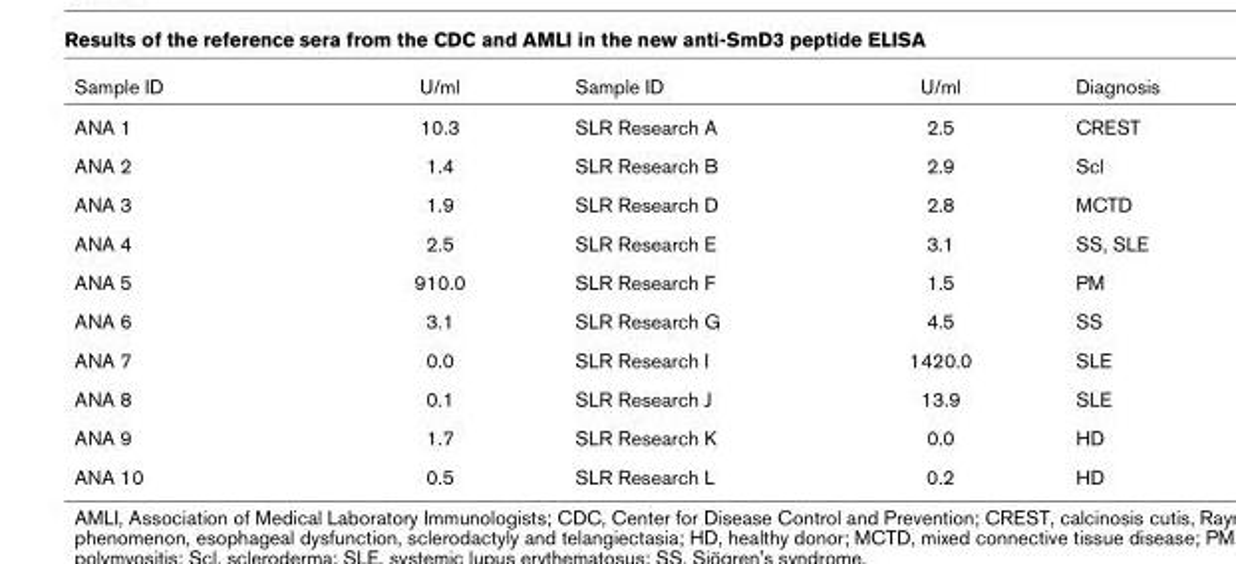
<table><thead><tr><td>Sample ID</td><td>U/ml</td><td>Sample ID</td><td>U/ml</td><td>Diagnosis</td></tr></thead><tbody><tr><td>ANA 1</td><td>10.3</td><td>SLR Research A</td><td>2.5</td><td>CREST</td></tr><tr><td>ANA 2</td><td>1.4</td><td>SLR Research B</td><td>2.9</td><td>Scl</td></tr><tr><td>ANA 3</td><td>1.9</td><td>SLR Research D</td><td>2.8</td><td>MCTD</td></tr><tr><td>ANA 4</td><td>2.5</td><td>SLR Research E</td><td>3.1</td><td>SS, SLE</td></tr><tr><td>ANA 5</td><td>910.0</td><td>SLR Research F</td><td>1.5</td><td>PM</td></tr><tr><td>ANA 6</td><td>3.1</td><td>SLR Research G</td><td>4.5</td><td>SS</td></tr><tr><td>ANA 7</td><td>0.0</td><td>SLR Research I</td><td>1420.0</td><td>SLE</td></tr><tr><td>ANA 8</td><td>0.1</td><td>SLR Research J</td><td>13.9</td><td>SLE</td></tr><tr><td>ANA 9</td><td>1.7</td><td>SLR Research K</td><td>0.0</td><td>HD</td></tr><tr><td>ANA 10</td><td>0.5</td><td>SLR Research L</td><td>0.2</td><td>HD</td></tr></tbody></table>